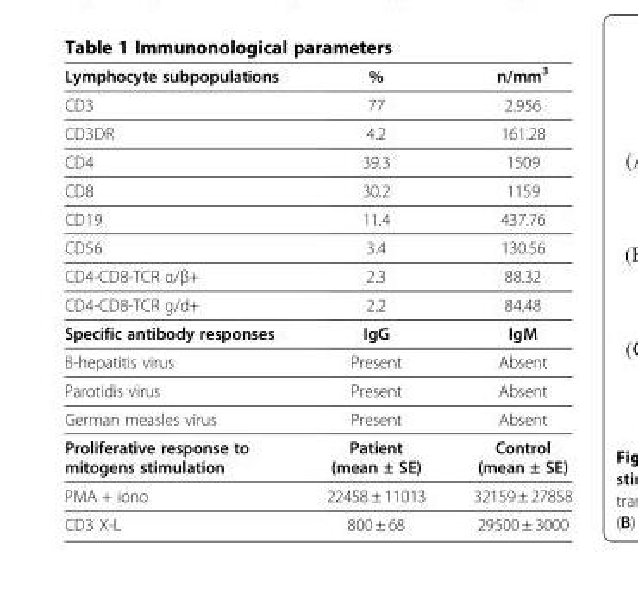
<table><thead><tr><td>Lymphocyte subpopulations</td><td>%</td><td>n/mm<sup>3</sup></td></tr></thead><tbody><tr><td>CD3</td><td>77</td><td>2.956</td></tr><tr><td>CD3DR</td><td>4.2</td><td>161.28</td></tr><tr><td>CD4</td><td>39.3</td><td>1509</td></tr><tr><td>CD8</td><td>30.2</td><td>1159</td></tr><tr><td>CD19</td><td>11.4</td><td>437.76</td></tr><tr><td>CD56</td><td>3.4</td><td>130.56</td></tr><tr><td>CD4-CD8-TCR α/β+</td><td>2.3</td><td>88.32</td></tr><tr><td>CD4-CD8-TCR g/d+</td><td>2.2</td><td>84.48</td></tr><tr><td>Specific antibody responses</td><td>IgG</td><td>IgM</td></tr><tr><td>B-hepatitis virus</td><td>Present</td><td>Absent</td></tr><tr><td>Parotidis virus</td><td>Present</td><td>Absent</td></tr><tr><td>German measles virus</td><td>Present</td><td>Absent</td></tr><tr><td>Proliferative response to mitogens stimulation</td><td>Patient (mean ± SE)</td><td>Control (mean ± SE)</td></tr><tr><td>PMA + iono</td><td>22458 ± 11013</td><td>32159 ± 27858</td></tr><tr><td>CD3 X-L</td><td>800 ± 68</td><td>29500 ± 3000</td></tr></tbody></table>